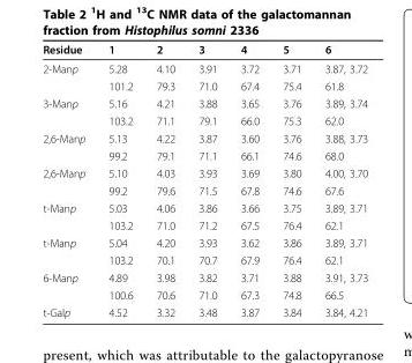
<table><thead><tr><td>Residue</td><td>1</td><td>2</td><td>3</td><td>4</td><td>5</td><td>6</td></tr></thead><tbody><tr><td rowspan="2">2-Manp</td><td>5.28</td><td>4.10</td><td>3.91</td><td>3.72</td><td>3.71</td><td>3.87, 3.72</td></tr><tr><td>101.2</td><td>79.3</td><td>71.0</td><td>67.4</td><td>75.4</td><td>61.8</td></tr><tr><td rowspan="2">3-Manp</td><td>5.16</td><td>4.21</td><td>3.88</td><td>3.65</td><td>3.76</td><td>3.89, 3.74</td></tr><tr><td>103.2</td><td>71.1</td><td>79.1</td><td>66.0</td><td>75.3</td><td>62.0</td></tr><tr><td rowspan="2">2,6-Manp</td><td>5.13</td><td>4.22</td><td>3.87</td><td>3.60</td><td>3.76</td><td>3.88, 3.73</td></tr><tr><td>99.2</td><td>79.1</td><td>71.1</td><td>66.1</td><td>74.6</td><td>68.0</td></tr><tr><td rowspan="2">2,6-Manp</td><td>5.10</td><td>4.03</td><td>3.93</td><td>3.69</td><td>3.80</td><td>4.00, 3.70</td></tr><tr><td>99.2</td><td>79.6</td><td>71.5</td><td>67.8</td><td>74.6</td><td>67.6</td></tr><tr><td rowspan="2">t-Manp</td><td>5.03</td><td>4.06</td><td>3.86</td><td>3.66</td><td>3.75</td><td>3.89, 3.71</td></tr><tr><td>103.2</td><td>71.0</td><td>71.2</td><td>67.5</td><td>76.4</td><td>62.1</td></tr><tr><td rowspan="2">t-Manp</td><td>5.04</td><td>4.20</td><td>3.93</td><td>3.62</td><td>3.86</td><td>3.89, 3.71</td></tr><tr><td>103.2</td><td>70.1</td><td>70.7</td><td>67.9</td><td>76.4</td><td>62.1</td></tr><tr><td rowspan="2">6-Manp</td><td>4.89</td><td>3.98</td><td>3.82</td><td>3.71</td><td>3.88</td><td>3.91, 3.73</td></tr><tr><td>100.6</td><td>70.6</td><td>71.0</td><td>67.3</td><td>74.8</td><td>66.5</td></tr><tr><td>t-Galp</td><td>4.52</td><td>3.32</td><td>3.48</td><td>3.87</td><td>3.84</td><td>3.84, 4.21</td></tr></tbody></table>